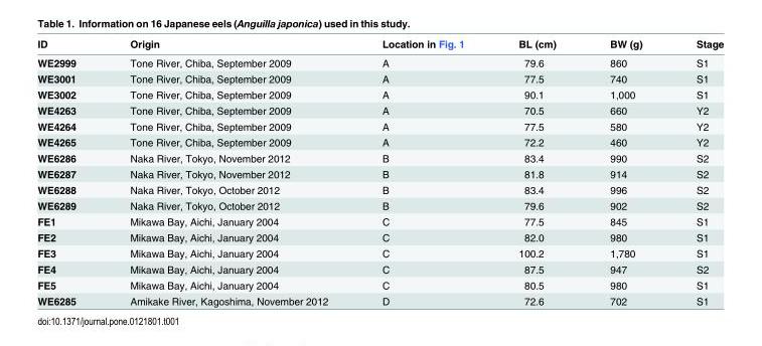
<table><thead><tr><td>ID</td><td>Origin</td><td>Location in Fig. 1</td><td>BL (cm)</td><td>BW (g)</td><td>Stage</td></tr></thead><tbody><tr><td>WE2999</td><td>Tone River, Chiba, September 2009</td><td>A</td><td>79.6</td><td>860</td><td>S1</td></tr><tr><td>WE3001</td><td>Tone River, Chiba, September 2009</td><td>A</td><td>77.5</td><td>740</td><td>S1</td></tr><tr><td>WE3002</td><td>Tone River, Chiba, September 2009</td><td>A</td><td>90.1</td><td>1,000</td><td>S1</td></tr><tr><td>WE4263</td><td>Tone River, Chiba, September 2009</td><td>A</td><td>70.5</td><td>660</td><td>Y2</td></tr><tr><td>WE4264</td><td>Tone River, Chiba, September 2009</td><td>A</td><td>77.5</td><td>580</td><td>Y2</td></tr><tr><td>WE4265</td><td>Tone River, Chiba, September 2009</td><td>A</td><td>72.2</td><td>460</td><td>Y2</td></tr><tr><td>WE6286</td><td>Naka River, Tokyo, November 2012</td><td>B</td><td>83.4</td><td>990</td><td>S2</td></tr><tr><td>WE6287</td><td>Naka River, Tokyo, November 2012</td><td>B</td><td>81.8</td><td>914</td><td>S2</td></tr><tr><td>WE6288</td><td>Naka River, Tokyo, October 2012</td><td>B</td><td>83.4</td><td>996</td><td>S2</td></tr><tr><td>WE6289</td><td>Naka River, Tokyo, October 2012</td><td>B</td><td>79.6</td><td>902</td><td>S2</td></tr><tr><td>FE1</td><td>Mikawa Bay, Aichi, January 2004</td><td>C</td><td>77.5</td><td>845</td><td>S1</td></tr><tr><td>FE2</td><td>Mikawa Bay, Aichi, January 2004</td><td>C</td><td>82.0</td><td>980</td><td>S1</td></tr><tr><td>FE3</td><td>Mikawa Bay, Aichi, January 2004</td><td>C</td><td>100.2</td><td>1,780</td><td>S1</td></tr><tr><td>FE4</td><td>Mikawa Bay, Aichi, January 2004</td><td>C</td><td>87.5</td><td>947</td><td>S2</td></tr><tr><td>FE5</td><td>Mikawa Bay, Aichi, January 2004</td><td>C</td><td>80.5</td><td>980</td><td>S1</td></tr><tr><td>WE6285</td><td>Amikake River, Kagoshima, November 2012</td><td>D</td><td>72.6</td><td>702</td><td>S1</td></tr></tbody></table>